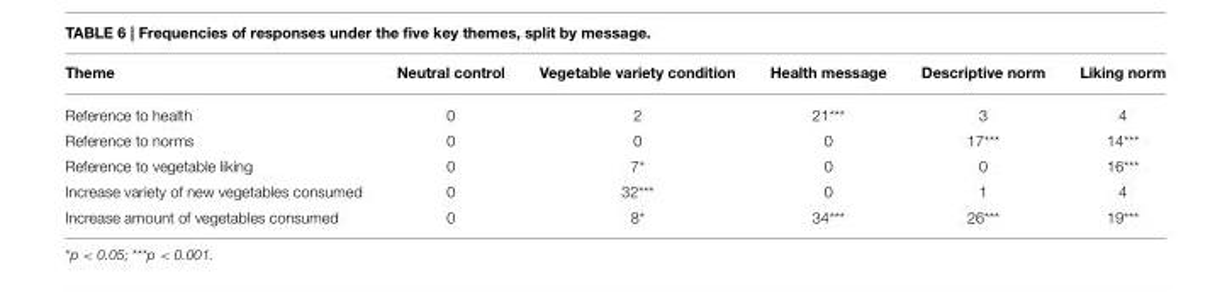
<table><thead><tr><td>Theme</td><td>Neutral control</td><td>Vegetable variety condition</td><td>Health message</td><td>Descriptive norm</td><td>Liking norm</td></tr></thead><tbody><tr><td>Reference to health</td><td>0</td><td>2</td><td>21***</td><td>3</td><td>4</td></tr><tr><td>Reference to norms</td><td>0</td><td>0</td><td>0</td><td>17***</td><td>14***</td></tr><tr><td>Reference to vegetable liking</td><td>0</td><td>7*</td><td>0</td><td>0</td><td>16***</td></tr><tr><td>Increase variety of new vegetables consumed</td><td>0</td><td>32***</td><td>0</td><td>1</td><td>4</td></tr><tr><td>Increase amount of vegetables consumed</td><td>0</td><td>8*</td><td>34***</td><td>26***</td><td>19***</td></tr></tbody></table>